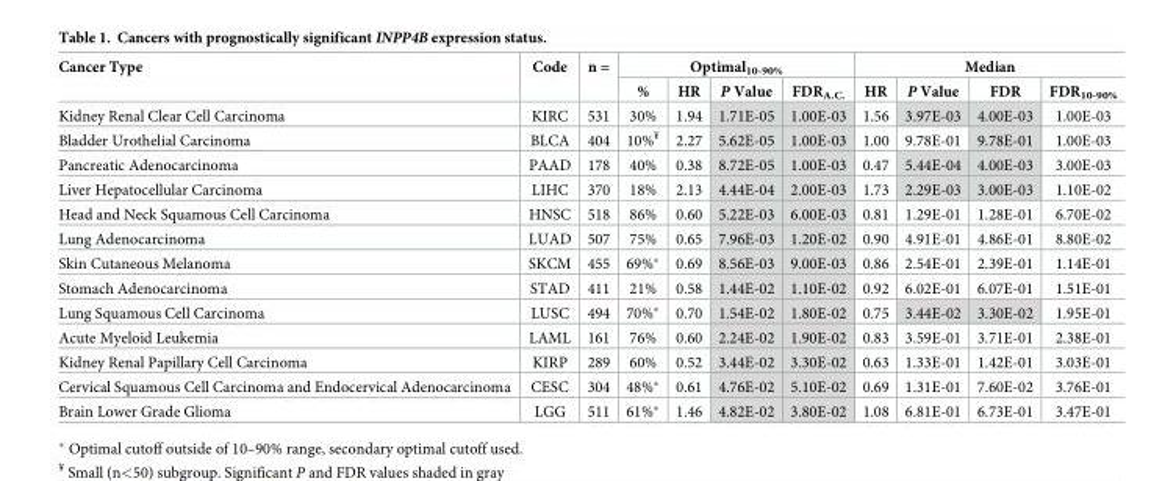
<table><thead><tr><td rowspan="2">Cancer Type</td><td rowspan="2">Code</td><td rowspan="2">n =</td><td colspan="4">Optimal<sub>10-90%</sub></td><td colspan="4">Median</td></tr><tr><td>%</td><td>HR</td><td>P Value</td><td>FDR<sub>A.C.</sub></td><td>HR</td><td>P Value</td><td>FDR</td><td>FDR<sub>10-90%</sub></td></tr></thead><tbody><tr><td>Kidney Renal Clear Cell Carcinoma</td><td>KIRC</td><td>531</td><td>30%</td><td>1.94</td><td>1.71E-05</td><td>1.00E-03</td><td>1.56</td><td>3.97E-03</td><td>4.00E-03</td><td>1.00E-03</td></tr><tr><td>Bladder Urothelial Carcinoma</td><td>BLCA</td><td>404</td><td>10%<sup>¥</sup></td><td>2.27</td><td>5.62E-05</td><td>1.00E-03</td><td>1.00</td><td>9.78E-01</td><td>9.78E-01</td><td>1.00E-03</td></tr><tr><td>Pancreatic Adenocarcinoma</td><td>PAAD</td><td>178</td><td>40%</td><td>0.38</td><td>8.72E-05</td><td>1.00E-03</td><td>0.47</td><td>5.44E-04</td><td>4.00E-03</td><td>3.00E-03</td></tr><tr><td>Liver Hepatocellular Carcinoma</td><td>LIHC</td><td>370</td><td>18%</td><td>2.13</td><td>4.44E-04</td><td>2.00E-03</td><td>1.73</td><td>2.29E-03</td><td>3.00E-03</td><td>1.10E-02</td></tr><tr><td>Head and Neck Squamous Cell Carcinoma</td><td>HNSC</td><td>518</td><td>86%</td><td>0.60</td><td>5.22E-03</td><td>6.00E-03</td><td>0.81</td><td>1.29E-01</td><td>1.28E-01</td><td>6.70E-02</td></tr><tr><td>Lung Adenocarcinoma</td><td>LUAD</td><td>507</td><td>75%</td><td>0.65</td><td>7.96E-03</td><td>1.20E-02</td><td>0.90</td><td>4.91E-01</td><td>4.86E-01</td><td>8.80E-02</td></tr><tr><td>Skin Cutaneous Melanoma</td><td>SKCM</td><td>455</td><td>69%*</td><td>0.69</td><td>8.56E-03</td><td>9.00E-03</td><td>0.86</td><td>2.54E-01</td><td>2.39E-01</td><td>1.14E-01</td></tr><tr><td>Stomach Adenocarcinoma</td><td>STAD</td><td>411</td><td>21%</td><td>0.58</td><td>1.44E-02</td><td>1.10E-02</td><td>0.92</td><td>6.02E-01</td><td>6.07E-01</td><td>1.51E-01</td></tr><tr><td>Lung Squamous Cell Carcinoma</td><td>LUSC</td><td>494</td><td>70%*</td><td>0.70</td><td>1.54E-02</td><td>1.80E-02</td><td>0.75</td><td>3.44E-02</td><td>3.30E-02</td><td>1.95E-01</td></tr><tr><td>Acute Myeloid Leukemia</td><td>LAML</td><td>161</td><td>76%</td><td>0.60</td><td>2.24E-02</td><td>1.90E-02</td><td>0.83</td><td>3.59E-01</td><td>3.71E-01</td><td>2.38E-01</td></tr><tr><td>Kidney Renal Papillary Cell Carcinoma</td><td>KIRP</td><td>289</td><td>60%</td><td>0.52</td><td>3.44E-02</td><td>3.30E-02</td><td>0.63</td><td>1.33E-01</td><td>1.42E-01</td><td>3.03E-01</td></tr><tr><td>Cervical Squamous Cell Carcinoma and Endocervical Adenocarcinoma</td><td>CESC</td><td>304</td><td>48%*</td><td>0.61</td><td>4.76E-02</td><td>5.10E-02</td><td>0.69</td><td>1.31E-01</td><td>7.60E-02</td><td>3.76E-01</td></tr><tr><td>Brain Lower Grade Glioma</td><td>LGG</td><td>511</td><td>61%*</td><td>1.46</td><td>4.82E-02</td><td>3.80E-02</td><td>1.08</td><td>6.81E-01</td><td>6.73E-01</td><td>3.47E-01</td></tr></tbody></table>